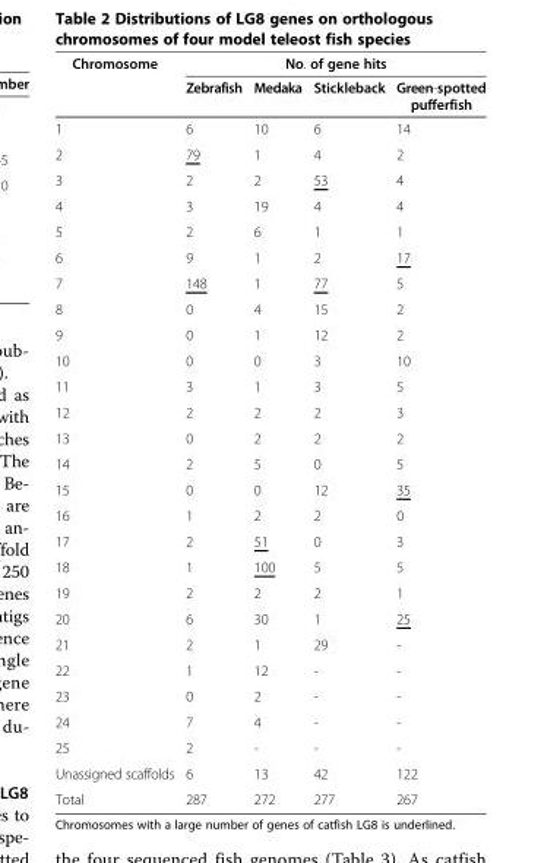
<table><thead><tr><td rowspan="2">Chromosome</td><td colspan="4">No. of gene hits</td></tr><tr><td>Zebrafish</td><td>Medaka</td><td>Stickleback</td><td>Green-spotted pufferfish</td></tr></thead><tbody><tr><td>1</td><td>6</td><td>10</td><td>6</td><td>14</td></tr><tr><td>2</td><td>79</td><td>1</td><td>4</td><td>2</td></tr><tr><td>3</td><td>2</td><td>2</td><td>53</td><td>4</td></tr><tr><td>4</td><td>3</td><td>19</td><td>4</td><td>4</td></tr><tr><td>5</td><td>2</td><td>6</td><td>1</td><td>1</td></tr><tr><td>6</td><td>9</td><td>1</td><td>2</td><td>17</td></tr><tr><td>7</td><td>148</td><td>1</td><td>77</td><td>5</td></tr><tr><td>8</td><td>0</td><td>4</td><td>15</td><td>2</td></tr><tr><td>9</td><td>0</td><td>1</td><td>12</td><td>2</td></tr><tr><td>10</td><td>0</td><td>0</td><td>3</td><td>10</td></tr><tr><td>11</td><td>3</td><td>1</td><td>3</td><td>5</td></tr><tr><td>12</td><td>2</td><td>2</td><td>2</td><td>3</td></tr><tr><td>13</td><td>0</td><td>2</td><td>2</td><td>2</td></tr><tr><td>14</td><td>2</td><td>5</td><td>0</td><td>5</td></tr><tr><td>15</td><td>0</td><td>0</td><td>12</td><td>35</td></tr><tr><td>16</td><td>1</td><td>2</td><td>2</td><td>0</td></tr><tr><td>17</td><td>2</td><td>51</td><td>0</td><td>3</td></tr><tr><td>18</td><td>1</td><td>100</td><td>5</td><td>5</td></tr><tr><td>19</td><td>2</td><td>2</td><td>2</td><td>1</td></tr><tr><td>20</td><td>6</td><td>30</td><td>1</td><td>25</td></tr><tr><td>21</td><td>2</td><td>1</td><td>29</td><td>-</td></tr><tr><td>22</td><td>1</td><td>12</td><td>-</td><td>-</td></tr><tr><td>23</td><td>0</td><td>2</td><td>-</td><td>-</td></tr><tr><td>24</td><td>7</td><td>4</td><td>-</td><td>-</td></tr><tr><td>25</td><td>2</td><td>-</td><td>-</td><td>-</td></tr><tr><td>Unassigned scaffolds</td><td>6</td><td>13</td><td>42</td><td>122</td></tr><tr><td>Total</td><td>287</td><td>272</td><td>277</td><td>267</td></tr></tbody></table>